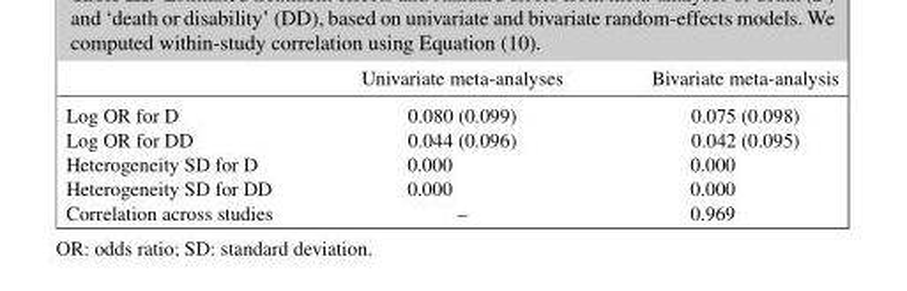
<table><thead><tr><td></td><td>Univariate meta-analyses</td><td>Bivariate meta-analysis</td></tr></thead><tbody><tr><td>Log OR for D</td><td>0.080 (0.099)</td><td>0.075 (0.098)</td></tr><tr><td>Log OR for DD</td><td>0.044 (0.096)</td><td>0.042 (0.095)</td></tr><tr><td>Heterogeneity SD for D</td><td>0.000</td><td>0.000</td></tr><tr><td>Heterogeneity SD for DD</td><td>0.000</td><td>0.000</td></tr><tr><td>Correlation across studies</td><td>–</td><td>0.969</td></tr></tbody></table>